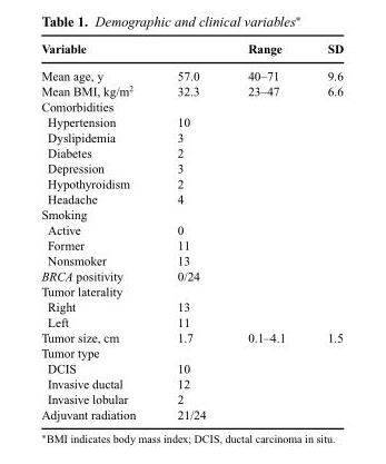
<table><thead><tr><td>Variable</td><td></td><td>Range</td><td>SD</td></tr></thead><tbody><tr><td>Mean age, y</td><td>57.0</td><td>40–71</td><td>9.6</td></tr><tr><td>Mean BMI, kg/m<sup>2</sup></td><td>32.3</td><td>23–47</td><td>6.6</td></tr><tr><td colspan="4">Comorbidities</td></tr><tr><td>Hypertension</td><td>10</td><td></td><td></td></tr><tr><td>Dyslipidemia</td><td>3</td><td></td><td></td></tr><tr><td>Diabetes</td><td>2</td><td></td><td></td></tr><tr><td>Depression</td><td>3</td><td></td><td></td></tr><tr><td>Hypothyroidism</td><td>2</td><td></td><td></td></tr><tr><td>Headache</td><td>4</td><td></td><td></td></tr><tr><td colspan="4">Smoking</td></tr><tr><td>Active</td><td>0</td><td></td><td></td></tr><tr><td>Former</td><td>11</td><td></td><td></td></tr><tr><td>Nonsmoker</td><td>13</td><td></td><td></td></tr><tr><td>BRCA positivity</td><td>0/24</td><td></td><td></td></tr><tr><td colspan="4">Tumor laterality</td></tr><tr><td>Right</td><td>13</td><td></td><td></td></tr><tr><td>Left</td><td>11</td><td></td><td></td></tr><tr><td>Tumor size, cm</td><td>1.7</td><td>0.1–4.1</td><td>1.5</td></tr><tr><td colspan="4">Tumor type</td></tr><tr><td>DCIS</td><td>10</td><td></td><td></td></tr><tr><td>Invasive ductal</td><td>12</td><td></td><td></td></tr><tr><td>Invasive lobular</td><td>2</td><td></td><td></td></tr><tr><td>Adjuvant radiation</td><td>21/24</td><td></td><td></td></tr></tbody></table>